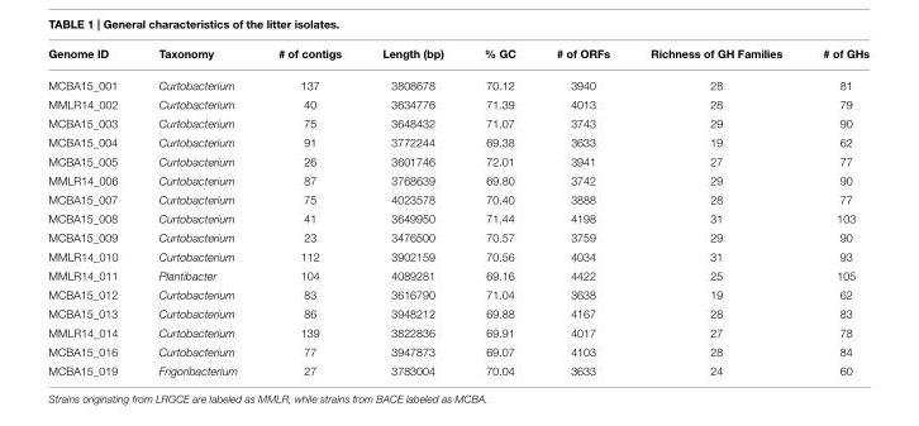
<table><thead><tr><td>Genome ID</td><td>Taxonomy</td><td># of contigs</td><td>Length (bp)</td><td>% GC</td><td># of ORFs</td><td>Richness of GH Families</td><td># of GHs</td></tr></thead><tbody><tr><td>MCBA15_001</td><td>Curtobacterium</td><td>137</td><td>3808678</td><td>70.12</td><td>3940</td><td>28</td><td>81</td></tr><tr><td>MMLR14_002</td><td>Curtobacterium</td><td>40</td><td>3634776</td><td>71.39</td><td>4013</td><td>28</td><td>79</td></tr><tr><td>MCBA15_003</td><td>Curtobacterium</td><td>75</td><td>3648432</td><td>71.07</td><td>3743</td><td>29</td><td>90</td></tr><tr><td>MCBA15_004</td><td>Curtobacterium</td><td>91</td><td>3772244</td><td>69.38</td><td>3633</td><td>19</td><td>62</td></tr><tr><td>MCBA15_005</td><td>Curtobacterium</td><td>26</td><td>3601746</td><td>72.01</td><td>3941</td><td>27</td><td>77</td></tr><tr><td>MMLR14_006</td><td>Curtobacterium</td><td>87</td><td>3768639</td><td>69.80</td><td>3742</td><td>29</td><td>90</td></tr><tr><td>MCBA15_007</td><td>Curtobacterium</td><td>75</td><td>4023578</td><td>70.40</td><td>3888</td><td>28</td><td>77</td></tr><tr><td>MCBA15_008</td><td>Curtobacterium</td><td>41</td><td>3649950</td><td>71.44</td><td>4198</td><td>31</td><td>103</td></tr><tr><td>MCBA15_009</td><td>Curtobacterium</td><td>23</td><td>3476500</td><td>70.57</td><td>3759</td><td>29</td><td>90</td></tr><tr><td>MMLR14_010</td><td>Curtobacterium</td><td>112</td><td>3902159</td><td>70.56</td><td>4034</td><td>31</td><td>93</td></tr><tr><td>MMLR14_011</td><td>Plantibacter</td><td>104</td><td>4089281</td><td>69.16</td><td>4422</td><td>25</td><td>105</td></tr><tr><td>MCBA15_012</td><td>Curtobacterium</td><td>83</td><td>3616790</td><td>71.04</td><td>3638</td><td>19</td><td>62</td></tr><tr><td>MCBA15_013</td><td>Curtobacterium</td><td>86</td><td>3948212</td><td>69.88</td><td>4167</td><td>28</td><td>83</td></tr><tr><td>MMLR14_014</td><td>Curtobacterium</td><td>139</td><td>3822836</td><td>69.91</td><td>4017</td><td>27</td><td>78</td></tr><tr><td>MCBA15_016</td><td>Curtobacterium</td><td>77</td><td>3947873</td><td>69.07</td><td>4103</td><td>28</td><td>84</td></tr><tr><td>MCBA15_019</td><td>Frigoribacterium</td><td>27</td><td>3783004</td><td>70.04</td><td>3633</td><td>24</td><td>60</td></tr></tbody></table>